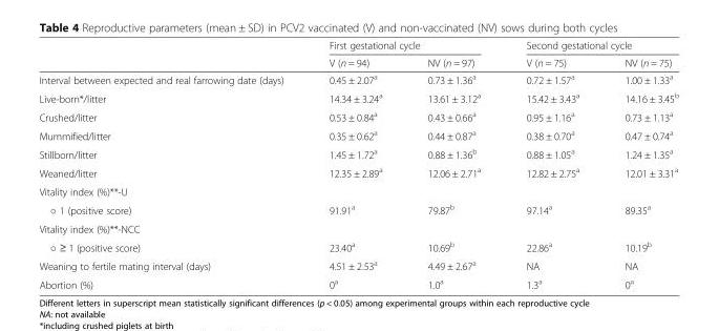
<table><thead><tr><td rowspan="2"></td><td colspan="2">First gestational cycle</td><td colspan="2">Second gestational cycle</td></tr><tr><td>V (n = 94)</td><td>NV (n = 97)</td><td>V (n = 75)</td><td>NV (n = 75)</td></tr></thead><tbody><tr><td>Interval between expected and real farrowing date (days)</td><td>0.45 ± 2.07<sup>a</sup></td><td>0.73 ± 1.36<sup>a</sup></td><td>0.72 ± 1.57<sup>a</sup></td><td>1.00 ± 1.33<sup>a</sup></td></tr><tr><td>Live-born*/litter</td><td>14.34 ± 3.24<sup>a</sup></td><td>13.61 ± 3.12<sup>a</sup></td><td>15.42 ± 3.43<sup>a</sup></td><td>14.16 ± 3.45<sup>b</sup></td></tr><tr><td>Crushed/litter</td><td>0.53 ± 0.84<sup>a</sup></td><td>0.43 ± 0.66<sup>a</sup></td><td>0.95 ± 1.16<sup>a</sup></td><td>0.73 ± 1.13<sup>a</sup></td></tr><tr><td>Mummified/litter</td><td>0.35 ± 0.62<sup>a</sup></td><td>0.44 ± 0.87<sup>a</sup></td><td>0.38 ± 0.70<sup>a</sup></td><td>0.47 ± 0.74<sup>a</sup></td></tr><tr><td>Stillborn/litter</td><td>1.45 ± 1.72<sup>a</sup></td><td>0.88 ± 1.36<sup>b</sup></td><td>0.88 ± 1.05<sup>a</sup></td><td>1.24 ± 1.35<sup>a</sup></td></tr><tr><td>Weaned/litter</td><td>12.35 ± 2.89<sup>a</sup></td><td>12.06 ± 2.71<sup>a</sup></td><td>12.82 ± 2.75<sup>a</sup></td><td>12.01 ± 3.31<sup>a</sup></td></tr><tr><td colspan="5">Vitality index (%)**-U</td></tr><tr><td>○ 1 (positive score)</td><td>91.91<sup>a</sup></td><td>79.87<sup>b</sup></td><td>97.14<sup>a</sup></td><td>89.35<sup>a</sup></td></tr><tr><td colspan="5">Vitality index (%)**-NCC</td></tr><tr><td>○ ≥ 1 (positive score)</td><td>23.40<sup>a</sup></td><td>10.69<sup>b</sup></td><td>22.86<sup>a</sup></td><td>10.19<sup>b</sup></td></tr><tr><td>Weaning to fertile mating interval (days)</td><td>4.51 ± 2.53<sup>a</sup></td><td>4.49 ± 2.67<sup>a</sup></td><td>NA</td><td>NA</td></tr><tr><td>Abortion (%)</td><td>0<sup>a</sup></td><td>1.0<sup>a</sup></td><td>1.3<sup>a</sup></td><td>0<sup>a</sup></td></tr></tbody></table>